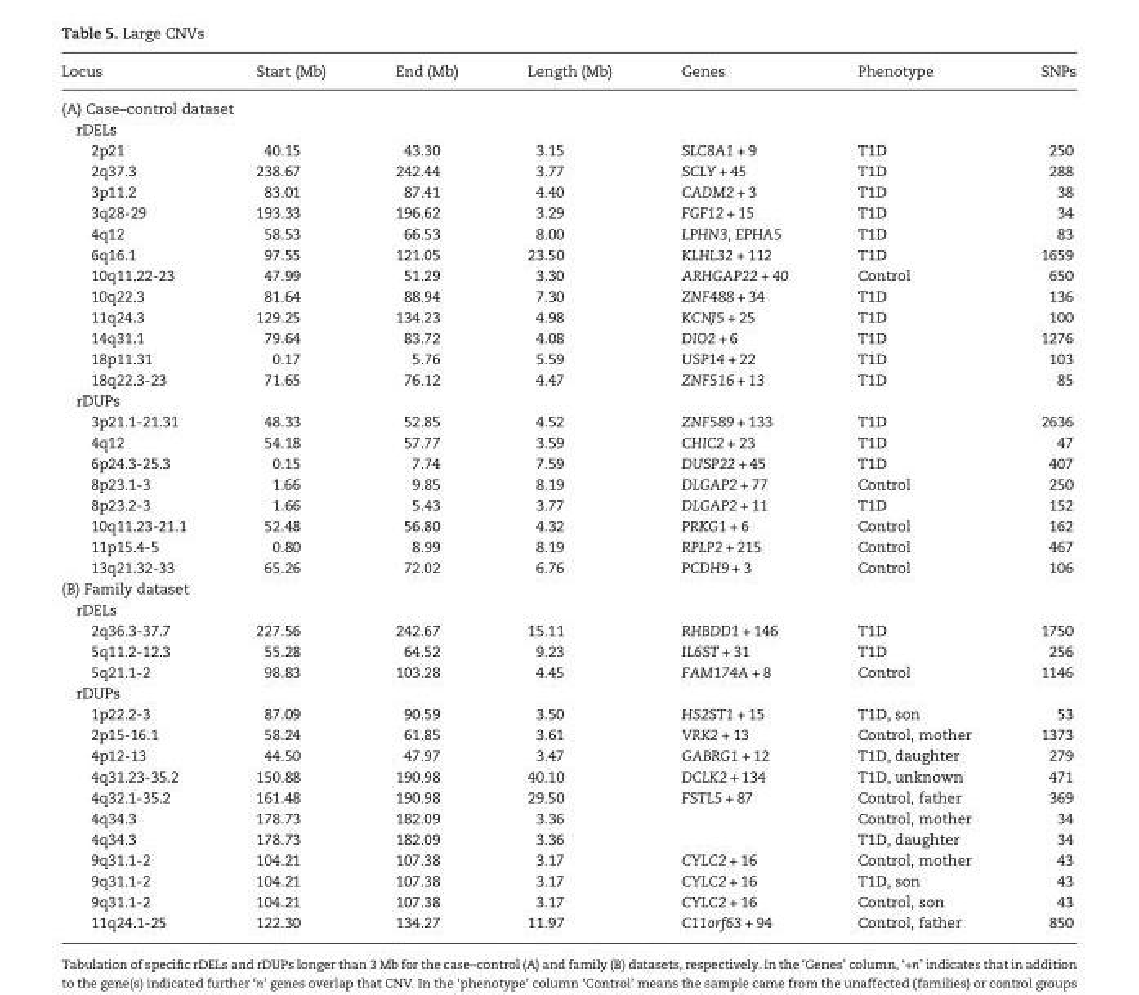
<table><thead><tr><td>Locus</td><td>Start (Mb)</td><td>End (Mb)</td><td>Length (Mb)</td><td>Genes</td><td>Phenotype</td><td>SNPs</td></tr></thead><tbody><tr><td colspan="7">(A) Case–control dataset</td></tr><tr><td colspan="7">rDELs</td></tr><tr><td>2p21</td><td>40.15</td><td>43.30</td><td>3.15</td><td>SLC8A1 + 9</td><td>T1D</td><td>250</td></tr><tr><td>2q37.3</td><td>238.67</td><td>242.44</td><td>3.77</td><td>SCLY + 45</td><td>T1D</td><td>288</td></tr><tr><td>3p11.2</td><td>83.01</td><td>87.41</td><td>4.40</td><td>CADM2 + 3</td><td>T1D</td><td>38</td></tr><tr><td>3q28-29</td><td>193.33</td><td>196.62</td><td>3.29</td><td>FGF12 + 15</td><td>T1D</td><td>34</td></tr><tr><td>4q12</td><td>58.53</td><td>66.53</td><td>8.00</td><td>LPHN3, EPHA5</td><td>T1D</td><td>83</td></tr><tr><td>6q16.1</td><td>97.55</td><td>121.05</td><td>23.50</td><td>KLHL32 + 112</td><td>T1D</td><td>1659</td></tr><tr><td>10q11.22-23</td><td>47.99</td><td>51.29</td><td>3.30</td><td>ARHGAP22 + 40</td><td>Control</td><td>650</td></tr><tr><td>10q22.3</td><td>81.64</td><td>88.94</td><td>7.30</td><td>ZNF488 + 34</td><td>T1D</td><td>136</td></tr><tr><td>11q24.3</td><td>129.25</td><td>134.23</td><td>4.98</td><td>KCNJ5 + 25</td><td>T1D</td><td>100</td></tr><tr><td>14q31.1</td><td>79.64</td><td>83.72</td><td>4.08</td><td>DIO2 + 6</td><td>T1D</td><td>1276</td></tr><tr><td>18p11.31</td><td>0.17</td><td>5.76</td><td>5.59</td><td>USP14 + 22</td><td>T1D</td><td>103</td></tr><tr><td>18q22.3-23</td><td>71.65</td><td>76.12</td><td>4.47</td><td>ZNF516 + 13</td><td>T1D</td><td>85</td></tr><tr><td colspan="7">rDUPs</td></tr><tr><td>3p21.1-21.31</td><td>48.33</td><td>52.85</td><td>4.52</td><td>ZNF589 + 133</td><td>T1D</td><td>2636</td></tr><tr><td>4q12</td><td>54.18</td><td>57.77</td><td>3.59</td><td>CHIC2 + 23</td><td>T1D</td><td>47</td></tr><tr><td>6p24.3-25.3</td><td>0.15</td><td>7.74</td><td>7.59</td><td>DUSP22 + 45</td><td>T1D</td><td>407</td></tr><tr><td>8p23.1-3</td><td>1.66</td><td>9.85</td><td>8.19</td><td>DLGAP2 + 77</td><td>Control</td><td>250</td></tr><tr><td>8p23.2-3</td><td>1.66</td><td>5.43</td><td>3.77</td><td>DLGAP2 + 11</td><td>T1D</td><td>152</td></tr><tr><td>10q11.23-21.1</td><td>52.48</td><td>56.80</td><td>4.32</td><td>PRKG1 + 6</td><td>Control</td><td>162</td></tr><tr><td>11p15.4-5</td><td>0.80</td><td>8.99</td><td>8.19</td><td>RPLP2 + 215</td><td>Control</td><td>467</td></tr><tr><td>13q21.32-33</td><td>65.26</td><td>72.02</td><td>6.76</td><td>PCDH9 + 3</td><td>Control</td><td>106</td></tr><tr><td colspan="7">(B) Family dataset</td></tr><tr><td colspan="7">rDELs</td></tr><tr><td>2q36.3-37.7</td><td>227.56</td><td>242.67</td><td>15.11</td><td>RHBDD1 + 146</td><td>T1D</td><td>1750</td></tr><tr><td>5q11.2-12.3</td><td>55.28</td><td>64.52</td><td>9.23</td><td>IL6ST + 31</td><td>T1D</td><td>256</td></tr><tr><td>5q21.1-2</td><td>98.83</td><td>103.28</td><td>4.45</td><td>FAM174A + 8</td><td>Control</td><td>1146</td></tr><tr><td colspan="7">rDUPs</td></tr><tr><td>1p22.2-3</td><td>87.09</td><td>90.59</td><td>3.50</td><td>HS2ST1 + 15</td><td>T1D, son</td><td>53</td></tr><tr><td>2p15-16.1</td><td>58.24</td><td>61.85</td><td>3.61</td><td>VRK2 + 13</td><td>Control, mother</td><td>1373</td></tr><tr><td>4p12-13</td><td>44.50</td><td>47.97</td><td>3.47</td><td>GABRG1 + 12</td><td>T1D, daughter</td><td>279</td></tr><tr><td>4q31.23-35.2</td><td>150.88</td><td>190.98</td><td>40.10</td><td>DCLK2 + 134</td><td>T1D, unknown</td><td>471</td></tr><tr><td>4q32.1-35.2</td><td>161.48</td><td>190.98</td><td>29.50</td><td>FSTL5 + 87</td><td>Control, father</td><td>369</td></tr><tr><td>4q34.3</td><td>178.73</td><td>182.09</td><td>3.36</td><td></td><td>Control, mother</td><td>34</td></tr><tr><td>4q34.3</td><td>178.73</td><td>182.09</td><td>3.36</td><td></td><td>T1D, daughter</td><td>34</td></tr><tr><td>9q31.1-2</td><td>104.21</td><td>107.38</td><td>3.17</td><td>CYLC2 + 16</td><td>Control, mother</td><td>43</td></tr><tr><td>9q31.1-2</td><td>104.21</td><td>107.38</td><td>3.17</td><td>CYLC2 + 16</td><td>T1D, son</td><td>43</td></tr><tr><td>9q31.1-2</td><td>104.21</td><td>107.38</td><td>3.17</td><td>CYLC2 + 16</td><td>Control, son</td><td>43</td></tr><tr><td>11q24.1-25</td><td>122.30</td><td>134.27</td><td>11.97</td><td>C11orf63 + 94</td><td>Control, father</td><td>850</td></tr></tbody></table>